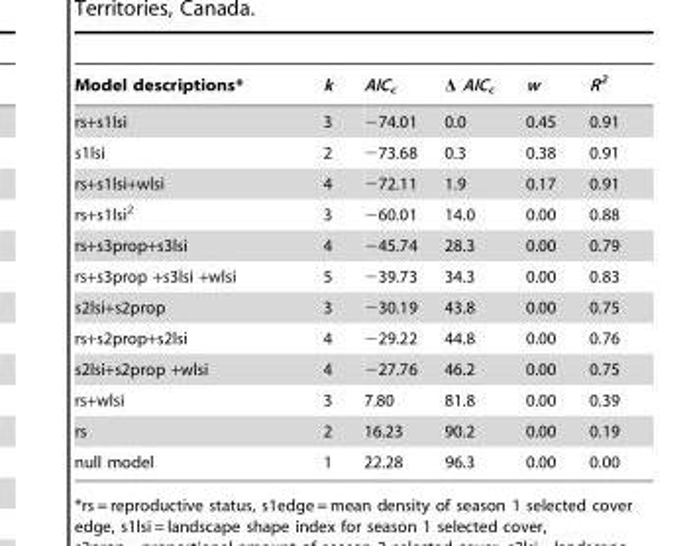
<table><thead><tr><td>Model descriptions*</td><td>k</td><td>AIC<sub>c</sub></td><td>Δ AIC<sub>c</sub></td><td>w</td><td>R<sup>2</sup></td></tr></thead><tbody><tr><td>rs+s1lsi</td><td>3</td><td>−74.01</td><td>0.0</td><td>0.45</td><td>0.91</td></tr><tr><td>s1lsi</td><td>2</td><td>−73.68</td><td>0.3</td><td>0.38</td><td>0.91</td></tr><tr><td>rs+s1lsi+wlsi</td><td>4</td><td>−72.11</td><td>1.9</td><td>0.17</td><td>0.91</td></tr><tr><td>rs+s1lsi<sup>2</sup></td><td>3</td><td>−60.01</td><td>14.0</td><td>0.00</td><td>0.88</td></tr><tr><td>rs+s3prop+s3lsi</td><td>4</td><td>−45.74</td><td>28.3</td><td>0.00</td><td>0.79</td></tr><tr><td>rs+s3prop +s3lsi +wlsi</td><td>5</td><td>−39.73</td><td>34.3</td><td>0.00</td><td>0.83</td></tr><tr><td>s2lsi+s2prop</td><td>3</td><td>−30.19</td><td>43.8</td><td>0.00</td><td>0.75</td></tr><tr><td>rs+s2prop+s2lsi</td><td>4</td><td>−29.22</td><td>44.8</td><td>0.00</td><td>0.76</td></tr><tr><td>s2lsi+s2prop +wlsi</td><td>4</td><td>−27.76</td><td>46.2</td><td>0.00</td><td>0.75</td></tr><tr><td>rs+wlsi</td><td>3</td><td>7.80</td><td>81.8</td><td>0.00</td><td>0.39</td></tr><tr><td>rs</td><td>2</td><td>16.23</td><td>90.2</td><td>0.00</td><td>0.19</td></tr><tr><td>null model</td><td>1</td><td>22.28</td><td>96.3</td><td>0.00</td><td>0.00</td></tr></tbody></table>